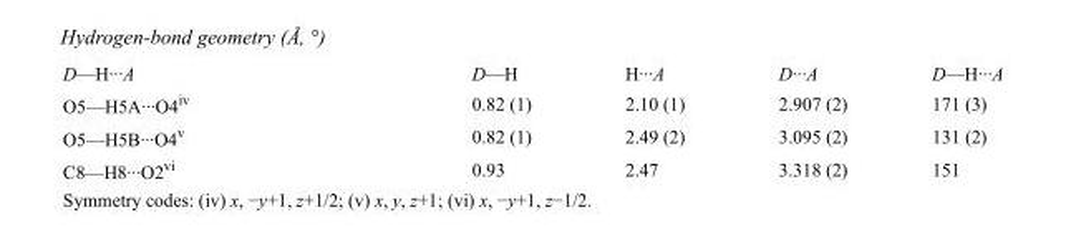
<table><tbody><tr><td>D—H···A</td><td>D—H</td><td>H···A</td><td>D···A</td><td>D—H···A</td></tr><tr><td>O5—H5A···O4<sup>iv</sup></td><td>0.82 (1)</td><td>2.10 (1)</td><td>2.907 (2)</td><td>171 (3)</td></tr><tr><td>O5—H5B···O4<sup>v</sup></td><td>0.82 (1)</td><td>2.49 (2)</td><td>3.095 (2)</td><td>131 (2)</td></tr><tr><td>C8—H8···O2<sup>vi</sup></td><td>0.93</td><td>2.47</td><td>3.318 (2)</td><td>151</td></tr></tbody></table>